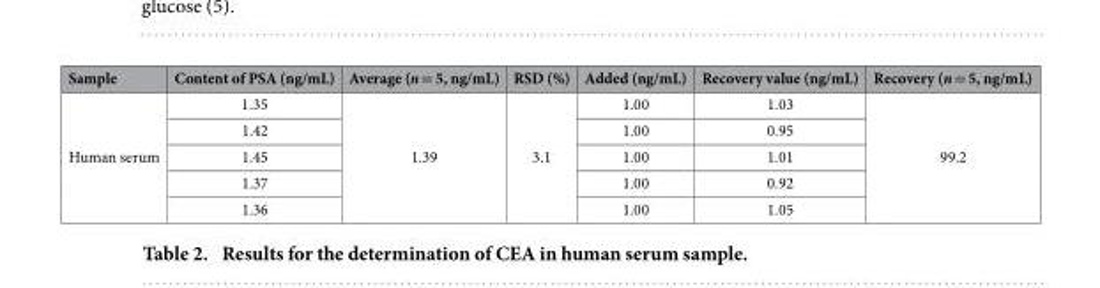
<table><thead><tr><td>Sample</td><td>Content of PSA (ng/mL)</td><td>Average (n = 5, ng/mL)</td><td>RSD (%)</td><td>Added (ng/mL)</td><td>Recovery value (ng/mL)</td><td>Recovery (n = 5, ng/mL)</td></tr></thead><tbody><tr><td rowspan="5">Human serum</td><td>1.35</td><td rowspan="5">1.39</td><td rowspan="5">3.1</td><td>1.00</td><td>1.03</td><td rowspan="5">99.2</td></tr><tr><td>1.42</td><td>1.00</td><td>0.95</td></tr><tr><td>1.45</td><td>1.00</td><td>1.01</td></tr><tr><td>1.37</td><td>1.00</td><td>0.92</td></tr><tr><td>1.36</td><td>1.00</td><td>1.05</td></tr></tbody></table>